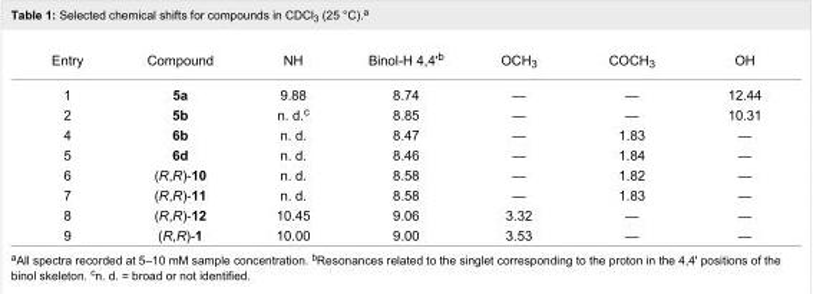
<table><tbody><tr><td>Entry</td><td>Compound</td><td>NH</td><td>Binol-H 4,4&#x27;<sup>b</sup></td><td>OCH<sub>3</sub></td><td>COCH<sub>3</sub></td><td>OH</td></tr><tr><td>1</td><td>5a</td><td>9.88</td><td>8.74</td><td>—</td><td>—</td><td>12.44</td></tr><tr><td>2</td><td>5b</td><td>n. d.<sup>c</sup></td><td>8.85</td><td>—</td><td>—</td><td>10.31</td></tr><tr><td>4</td><td>6b</td><td>n. d.</td><td>8.47</td><td>—</td><td>1.83</td><td>—</td></tr><tr><td>5</td><td>6d</td><td>n. d.</td><td>8.46</td><td>—</td><td>1.84</td><td>—</td></tr><tr><td>6</td><td>(R,R)-10</td><td>n. d.</td><td>8.58</td><td>—</td><td>1.82</td><td>—</td></tr><tr><td>7</td><td>(R,R)-11</td><td>n. d.</td><td>8.58</td><td>—</td><td>1.83</td><td>—</td></tr><tr><td>8</td><td>(R,R)-12</td><td>10.45</td><td>9.06</td><td>3.32</td><td>—</td><td>—</td></tr><tr><td>9</td><td>(R,R)-1</td><td>10.00</td><td>9.00</td><td>3.53</td><td>—</td><td>—</td></tr></tbody></table>